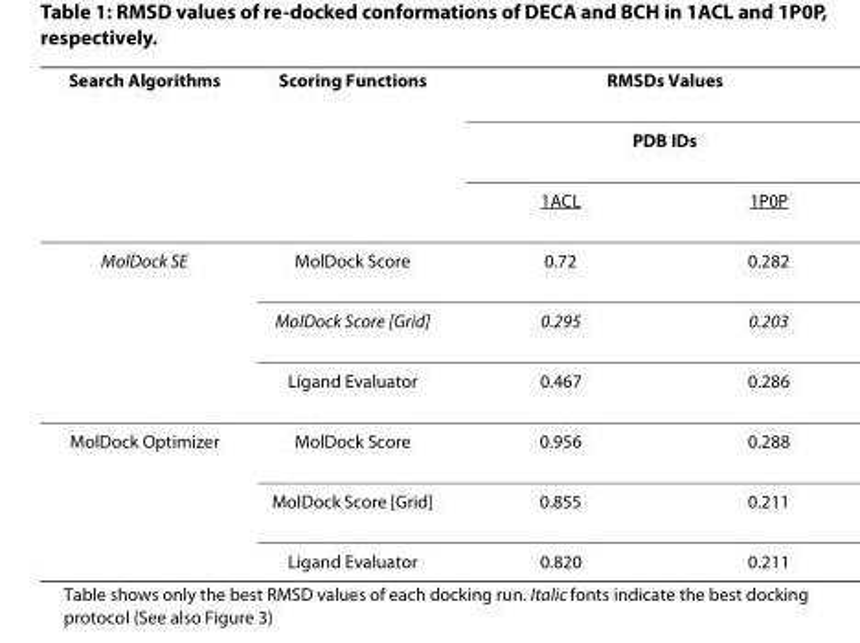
<table><thead><tr><td rowspan="3">Search Algorithms</td><td rowspan="3">Scoring Functions</td><td rowspan="2" colspan="2">RMSDs Values PDB IDs</td></tr><tr></tr><tr><td>1ACL</td><td>1P0P</td></tr></thead><tbody><tr><td rowspan="3">MolDock SE</td><td>MolDock Score</td><td>0.72</td><td>0.282</td></tr><tr><td>MolDock Score [Grid]</td><td>0.295</td><td>0.203</td></tr><tr><td>Ligand Evaluator</td><td>0.467</td><td>0.286</td></tr><tr><td rowspan="3">MolDock Optimizer</td><td>MolDock Score</td><td>0.956</td><td>0.288</td></tr><tr><td>MolDock Score [Grid]</td><td>0.855</td><td>0.211</td></tr><tr><td>Ligand Evaluator</td><td>0.820</td><td>0.211</td></tr></tbody></table>